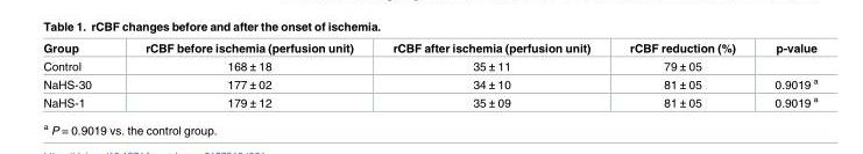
<table><thead><tr><td>Group</td><td>rCBF before ischemia (perfusion unit)</td><td>rCBF after ischemia (perfusion unit)</td><td>rCBF reduction (%)</td><td>p-value</td></tr></thead><tbody><tr><td>Control</td><td>168 ± 18</td><td>35 ± 11</td><td>79 ± 05</td><td></td></tr><tr><td>NaHS-30</td><td>177 ± 02</td><td>34 ± 10</td><td>81 ± 05</td><td>0.9019 <sup>a</sup></td></tr><tr><td>NaHS-1</td><td>179 ± 12</td><td>35 ± 09</td><td>81 ± 05</td><td>0.9019 <sup>a</sup></td></tr></tbody></table>